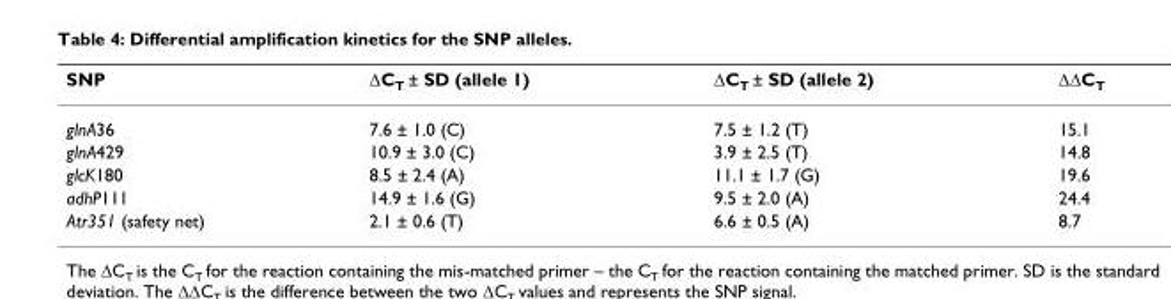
<table><thead><tr><td>SNP</td><td>ΔC<sub>T</sub> ± SD (allele 1)</td><td>ΔC<sub>T</sub> ± SD (allele 2)</td><td>ΔΔC<sub>T</sub></td></tr></thead><tbody><tr><td>glnA36</td><td>7.6 ± 1.0 (C)</td><td>7.5 ± 1.2 (T)</td><td>15.1</td></tr><tr><td>glnA429</td><td>10.9 ± 3.0 (C)</td><td>3.9 ± 2.5 (T)</td><td>14.8</td></tr><tr><td>glcK180</td><td>8.5 ± 2.4 (A)</td><td>11.1 ± 1.7 (G)</td><td>19.6</td></tr><tr><td>adhP111</td><td>14.9 ± 1.6 (G)</td><td>9.5 ± 2.0 (A)</td><td>24.4</td></tr><tr><td>Atr351 (safety net)</td><td>2.1 ± 0.6 (T)</td><td>6.6 ± 0.5 (A)</td><td>8.7</td></tr></tbody></table>